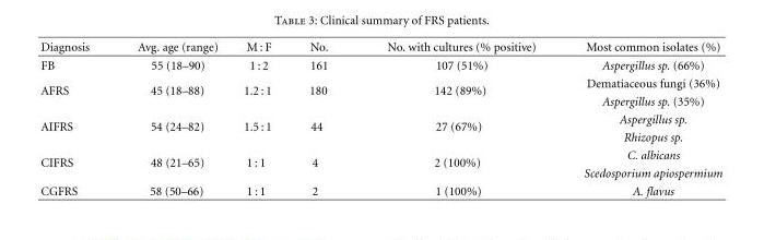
<table><thead><tr><td>Diagnosis</td><td>Avg. age (range)</td><td>M : F</td><td>No.</td><td>No. with cultures (% positive)</td><td>Most common isolates (%)</td></tr></thead><tbody><tr><td>FB</td><td>55 (18–90)</td><td>1 : 2</td><td>161</td><td>107 (51%)</td><td>Aspergillus sp. (66%)</td></tr><tr><td rowspan="2">AFRS</td><td rowspan="2">45 (18–88)</td><td rowspan="2">1.2 : 1</td><td rowspan="2">180</td><td rowspan="2">142 (89%)</td><td>Dematiaceous fungi (36%)</td></tr><tr><td>Aspergillus sp. (35%)</td></tr><tr><td rowspan="2">AIFRS</td><td rowspan="2">54 (24–82)</td><td rowspan="2">1.5 : 1</td><td rowspan="2">44</td><td rowspan="2">27 (67%)</td><td>Aspergillus sp.</td></tr><tr><td>Rhizopus sp.</td></tr><tr><td rowspan="2">CIFRS</td><td rowspan="2">48 (21–65)</td><td rowspan="2">1 : 1</td><td rowspan="2">4</td><td rowspan="2">2 (100%)</td><td>C. albicans</td></tr><tr><td>Scedosporium apiospermium</td></tr><tr><td>CGFRS</td><td>58 (50–66)</td><td>1 : 1</td><td>2</td><td>1 (100%)</td><td>A. flavus</td></tr></tbody></table>